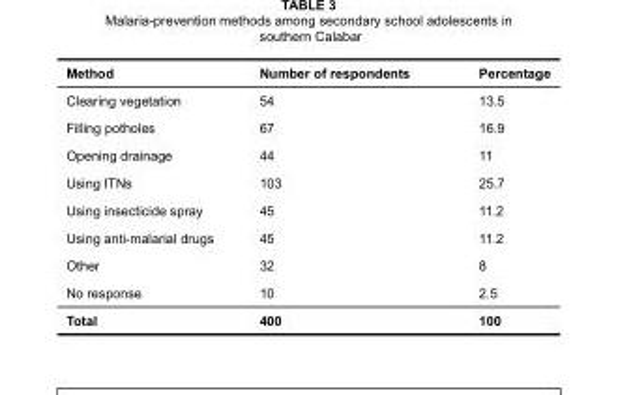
<table><thead><tr><td>Method</td><td>Number of respondents</td><td>Percentage</td></tr></thead><tbody><tr><td>Clearing vegetation</td><td>54</td><td>13.5</td></tr><tr><td>Filling potholes</td><td>67</td><td>16.9</td></tr><tr><td>Opening drainage</td><td>44</td><td>11</td></tr><tr><td>Using ITNs</td><td>103</td><td>25.7</td></tr><tr><td>Using insecticide spray</td><td>45</td><td>11.2</td></tr><tr><td>Using anti-malarial drugs</td><td>45</td><td>11.2</td></tr><tr><td>Other</td><td>32</td><td>8</td></tr><tr><td>No response</td><td>10</td><td>2.5</td></tr><tr><td>Total</td><td>400</td><td>100</td></tr></tbody></table>